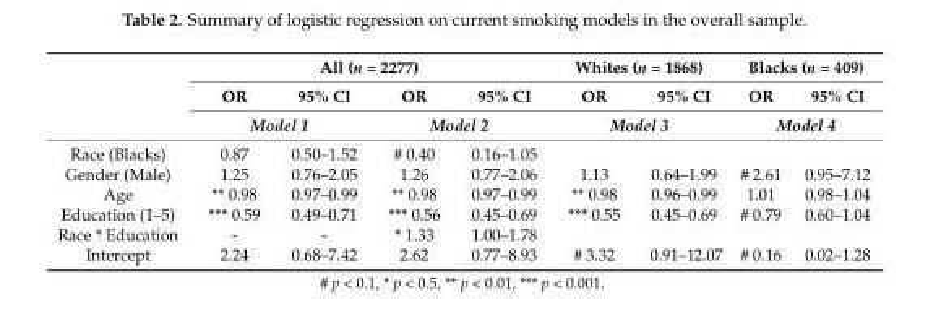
<table><thead><tr><td rowspan="3"></td><td colspan="4">All (n = 2277)</td><td colspan="2">Whites (n = 1868)</td><td colspan="2">Blacks (n = 409)</td></tr><tr><td>OR</td><td>95% CI</td><td>OR</td><td>95% CI</td><td>OR</td><td>95% CI</td><td>OR</td><td>95% CI</td></tr><tr><td colspan="2">Model 1</td><td colspan="2">Model 2</td><td colspan="2">Model 3</td><td colspan="2">Model 4</td></tr></thead><tbody><tr><td>Race (Blacks)</td><td>0.87</td><td>0.50–1.52</td><td># 0.40</td><td>0.16–1.05</td><td></td><td></td><td></td><td></td></tr><tr><td>Gender (Male)</td><td>1.25</td><td>0.76–2.05</td><td>1.26</td><td>0.77–2.06</td><td>1.13</td><td>0.64–1.99</td><td># 2.61</td><td>0.95–7.12</td></tr><tr><td>Age</td><td>** 0.98</td><td>0.97–0.99</td><td>** 0.98</td><td>0.97–0.99</td><td>** 0.98</td><td>0.96–0.99</td><td>1.01</td><td>0.98–1.04</td></tr><tr><td>Education (1–5)</td><td>*** 0.59</td><td>0.49–0.71</td><td>*** 0.56</td><td>0.45–0.69</td><td>*** 0.55</td><td>0.45–0.69</td><td># 0.79</td><td>0.60–1.04</td></tr><tr><td>Race * Education</td><td>-</td><td>-</td><td>* 1.33</td><td>1.00–1.78</td><td></td><td></td><td></td><td></td></tr><tr><td>Intercept</td><td>2.24</td><td>0.68–7.42</td><td>2.62</td><td>0.77–8.93</td><td># 3.32</td><td>0.91–12.07</td><td># 0.16</td><td>0.02–1.28</td></tr></tbody></table>